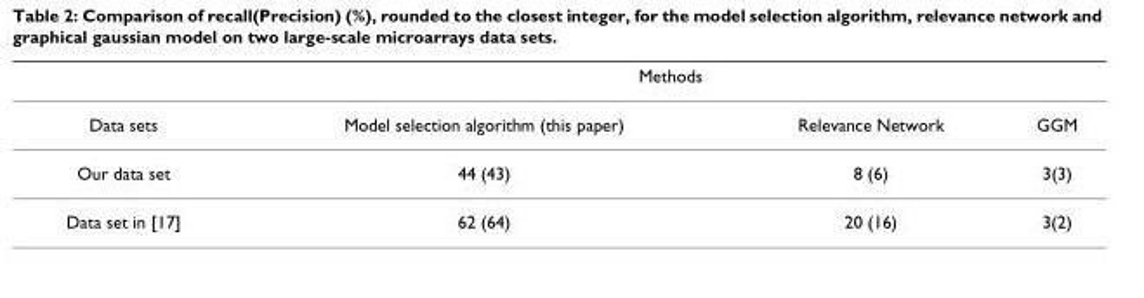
<table><thead><tr><td rowspan="2">Data sets</td><td colspan="3">Methods</td></tr><tr><td>Model selection algorithm (this paper)</td><td>Relevance Network</td><td>GGM</td></tr></thead><tbody><tr><td>Our data set</td><td>44 (43)</td><td>8 (6)</td><td>3(3)</td></tr><tr><td>Data set in [17]</td><td>62 (64)</td><td>20 (16)</td><td>3(2)</td></tr></tbody></table>